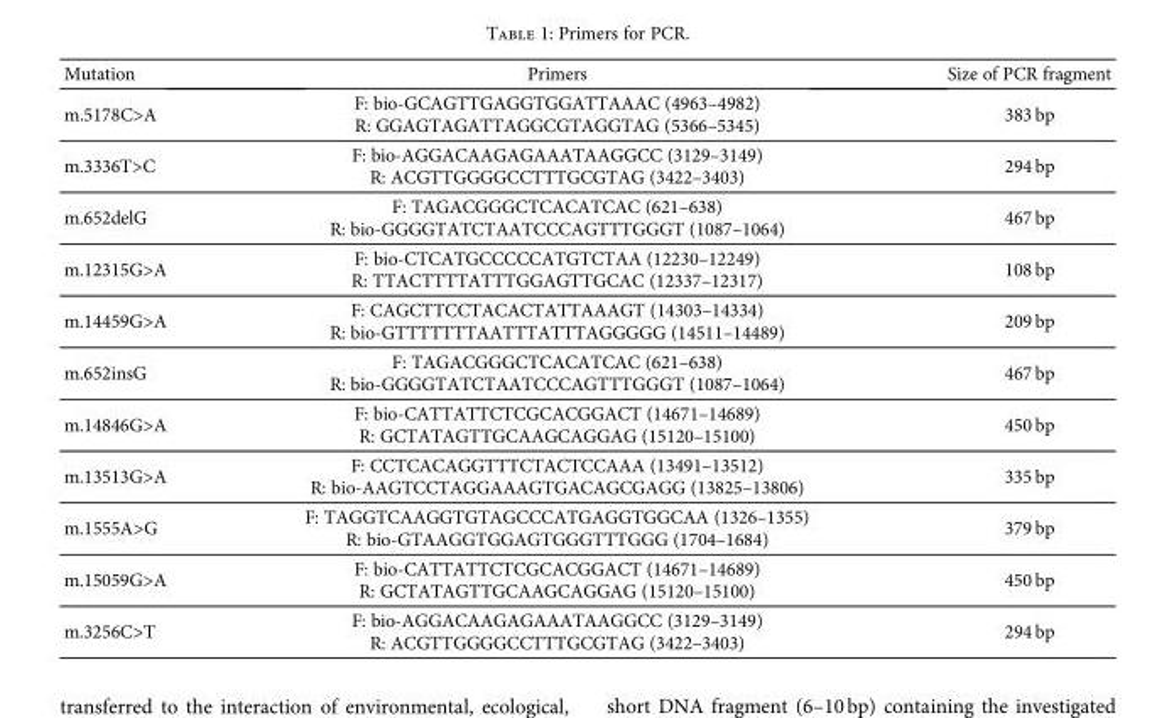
<table><thead><tr><td>Mutation</td><td>Primers</td><td>Size of PCR fragment</td></tr></thead><tbody><tr><td>m.5178C&gt;A</td><td>F: bio-GCAGTTGAGGTGGATTAAAC (4963–4982) R: GGAGTAGATTAGGCGTAGGTAG (5366–5345)</td><td>383 bp</td></tr><tr><td>m.3336T&gt;C</td><td>F: bio-AGGACAAGAGAAATAAGGCC (3129–3149) R: ACGTTGGGGCCTTTGCGTAG (3422–3403)</td><td>294 bp</td></tr><tr><td>m.652delG</td><td>F: TAGACGGGCTCACATCAC (621–638) R: bio-GGGGTATCTAATCCCAGTTTGGGT (1087–1064)</td><td>467 bp</td></tr><tr><td>m.12315G&gt;A</td><td>F: bio-CTCATGCCCCCATGTCTAA (12230–12249) R: TTACTTTTATTTGGAGTTGCAC (12337–12317)</td><td>108 bp</td></tr><tr><td>m.14459G&gt;A</td><td>F: CAGCTTCCTACACTATTAAAGT (14303–14334) R: bio-GTTTTTTTAATTTATTTAGGGGG (14511–14489)</td><td>209 bp</td></tr><tr><td>m.652insG</td><td>F: TAGACGGGCTCACATCAC (621–638) R: bio-GGGGTATCTAATCCCAGTTTGGGT (1087–1064)</td><td>467 bp</td></tr><tr><td>m.14846G&gt;A</td><td>F: bio-CATTATTCTCGCACGGACT (14671–14689) R: GCTATAGTTGCAAGCAGGAG (15120–15100)</td><td>450 bp</td></tr><tr><td>m.13513G&gt;A</td><td>F: CCTCACAGGTTTCTACTCCAAA (13491–13512) R: bio-AAGTCCTAGGAAAGTGACAGCGAGG (13825–13806)</td><td>335 bp</td></tr><tr><td>m.1555A&gt;G</td><td>F: TAGGTCAAGGTGTAGCCCATGAGGTGGCAA (1326–1355) R: bio-GTAAGGTGGAGTGGGTTTGGG (1704–1684)</td><td>379 bp</td></tr><tr><td>m.15059G&gt;A</td><td>F: bio-CATTATTCTCGCACGGACT (14671–14689) R: GCTATAGTTGCAAGCAGGAG (15120–15100)</td><td>450 bp</td></tr><tr><td>m.3256C&gt;T</td><td>F: bio-AGGACAAGAGAAATAAGGCC (3129–3149) R: ACGTTGGGGCCTTTGCGTAG (3422–3403)</td><td>294 bp</td></tr></tbody></table>